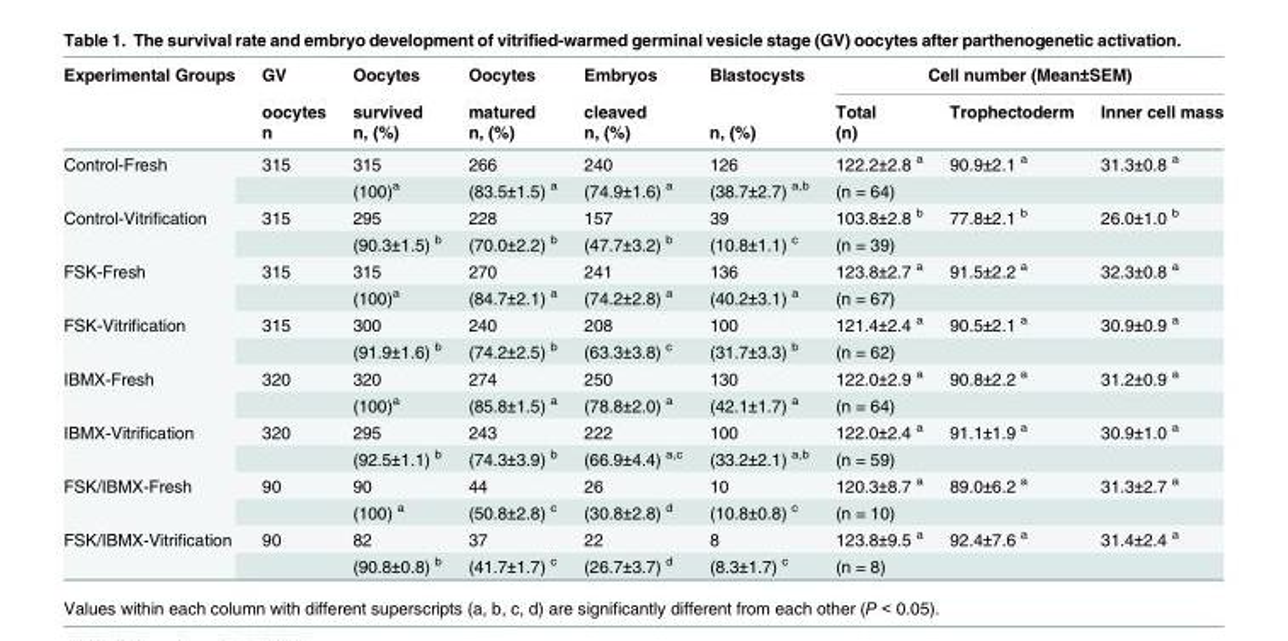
<table><thead><tr><td rowspan="3">Experimental Groups</td><td rowspan="3">GV oocytes n</td><td rowspan="3">Oocytes survived n, (%)</td><td rowspan="3">Oocytes matured n, (%)</td><td rowspan="3">Embryos cleaved n, (%)</td><td rowspan="3">Blastocysts n, (%)</td><td colspan="3">Cell number (Mean±SEM)</td></tr><tr><td rowspan="2">Total (n)</td><td rowspan="2">Trophectoderm</td><td rowspan="2">Inner cell mass</td></tr><tr></tr></thead><tbody><tr><td rowspan="2">Control-Fresh</td><td>315</td><td>315</td><td>266</td><td>240</td><td>126</td><td>122.2±2.8 <sup>a</sup></td><td>90.9±2.1 <sup>a</sup></td><td>31.3±0.8 <sup>a</sup></td></tr><tr><td></td><td>(100)<sup>a</sup></td><td>(83.5±1.5) <sup>a</sup></td><td>(74.9±1.6) <sup>a</sup></td><td>(38.7±2.7) <sup>a,b</sup></td><td>(n = 64)</td><td></td><td></td></tr><tr><td rowspan="2">Control-Vitrification</td><td>315</td><td>295</td><td>228</td><td>157</td><td>39</td><td>103.8±2.8 <sup>b</sup></td><td>77.8±2.1 <sup>b</sup></td><td>26.0±1.0 <sup>b</sup></td></tr><tr><td></td><td>(90.3±1.5) <sup>b</sup></td><td>(70.0±2.2) <sup>b</sup></td><td>(47.7±3.2) <sup>b</sup></td><td>(10.8±1.1) <sup>c</sup></td><td>(n = 39)</td><td></td><td></td></tr><tr><td rowspan="2">FSK-Fresh</td><td>315</td><td>315</td><td>270</td><td>241</td><td>136</td><td>123.8±2.7 <sup>a</sup></td><td>91.5±2.2 <sup>a</sup></td><td>32.3±0.8 <sup>a</sup></td></tr><tr><td></td><td>(100)<sup>a</sup></td><td>(84.7±2.1) <sup>a</sup></td><td>(74.2±2.8) <sup>a</sup></td><td>(40.2±3.1) <sup>a</sup></td><td>(n = 67)</td><td></td><td></td></tr><tr><td rowspan="2">FSK-Vitrification</td><td>315</td><td>300</td><td>240</td><td>208</td><td>100</td><td>121.4±2.4 <sup>a</sup></td><td>90.5±2.1 <sup>a</sup></td><td>30.9±0.9 <sup>a</sup></td></tr><tr><td></td><td>(91.9±1.6) <sup>b</sup></td><td>(74.2±2.5) <sup>b</sup></td><td>(63.3±3.8) <sup>c</sup></td><td>(31.7±3.3) <sup>b</sup></td><td>(n = 62)</td><td></td><td></td></tr><tr><td rowspan="2">IBMX-Fresh</td><td>320</td><td>320</td><td>274</td><td>250</td><td>130</td><td>122.0±2.9 <sup>a</sup></td><td>90.8±2.2 <sup>a</sup></td><td>31.2±0.9 <sup>a</sup></td></tr><tr><td></td><td>(100)<sup>a</sup></td><td>(85.8±1.5) <sup>a</sup></td><td>(78.8±2.0) <sup>a</sup></td><td>(42.1±1.7) <sup>a</sup></td><td>(n = 64)</td><td></td><td></td></tr><tr><td rowspan="2">IBMX-Vitrification</td><td>320</td><td>295</td><td>243</td><td>222</td><td>100</td><td>122.0±2.4 <sup>a</sup></td><td>91.1±1.9 <sup>a</sup></td><td>30.9±1.0 <sup>a</sup></td></tr><tr><td></td><td>(92.5±1.1) <sup>b</sup></td><td>(74.3±3.9) <sup>b</sup></td><td>(66.9±4.4) <sup>a,c</sup></td><td>(33.2±2.1) <sup>a,b</sup></td><td>(n = 59)</td><td></td><td></td></tr><tr><td rowspan="2">FSK/IBMX-Fresh</td><td>90</td><td>90</td><td>44</td><td>26</td><td>10</td><td>120.3±8.7 <sup>a</sup></td><td>89.0±6.2 <sup>a</sup></td><td>31.3±2.7 <sup>a</sup></td></tr><tr><td></td><td>(100) <sup>a</sup></td><td>(50.8±2.8) <sup>c</sup></td><td>(30.8±2.8) <sup>d</sup></td><td>(10.8±0.8) <sup>c</sup></td><td>(n = 10)</td><td></td><td></td></tr><tr><td rowspan="2">FSK/IBMX-Vitrification</td><td>90</td><td>82</td><td>37</td><td>22</td><td>8</td><td>123.8±9.5 <sup>a</sup></td><td>92.4±7.6 <sup>a</sup></td><td>31.4±2.4 <sup>a</sup></td></tr><tr><td></td><td>(90.8±0.8) <sup>b</sup></td><td>(41.7±1.7) <sup>c</sup></td><td>(26.7±3.7) <sup>d</sup></td><td>(8.3±1.7) <sup>c</sup></td><td>(n = 8)</td><td></td><td></td></tr></tbody></table>